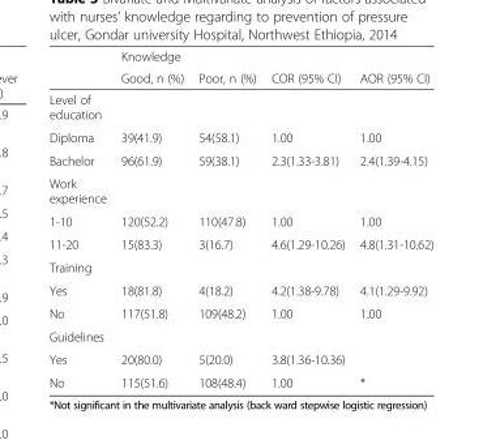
<table><thead><tr><td rowspan="2"></td><td colspan="2">Knowledge</td><td rowspan="2">COR (95% CI)</td><td rowspan="2">AOR (95% CI)</td></tr><tr><td>Good, n (%)</td><td>Poor, n (%)</td></tr></thead><tbody><tr><td colspan="5">Level of education</td></tr><tr><td>Diploma</td><td>39(41.9)</td><td>54(58.1)</td><td>1.00</td><td>1.00</td></tr><tr><td>Bachelor</td><td>96(61.9)</td><td>59(38.1)</td><td>2.3(1.33-3.81)</td><td>2.4(1.39-4.15)</td></tr><tr><td colspan="5">Work experience</td></tr><tr><td>1-10</td><td>120(52.2)</td><td>110(47.8)</td><td>1.00</td><td>1.00</td></tr><tr><td>11-20</td><td>15(83.3)</td><td>3(16.7)</td><td>4.6(1.29-10.26)</td><td>4.8(1.31-10.62)</td></tr><tr><td colspan="5">Training</td></tr><tr><td>Yes</td><td>18(81.8)</td><td>4(18.2)</td><td>4.2(1.38-9.78)</td><td>4.1(1.29-9.92)</td></tr><tr><td>No</td><td>117(51.8)</td><td>109(48.2)</td><td>1.00</td><td>1.00</td></tr><tr><td colspan="5">Guidelines</td></tr><tr><td>Yes</td><td>20(80.0)</td><td>5(20.0)</td><td>3.8(1.36-10.36)</td><td></td></tr><tr><td>No</td><td>115(51.6)</td><td>108(48.4)</td><td>1.00</td><td>*</td></tr></tbody></table>